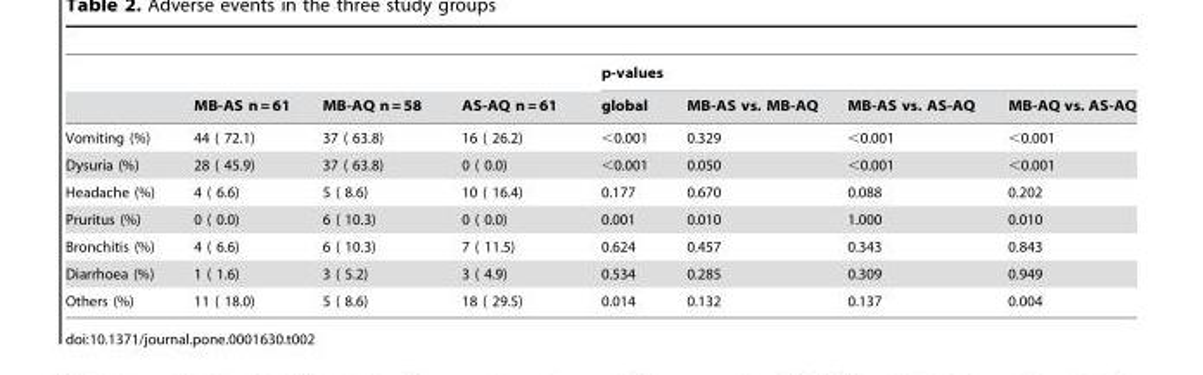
<table><thead><tr><td rowspan="2"></td><td rowspan="2">MB-AS n = 61</td><td rowspan="2">MB-AQ n = 58</td><td rowspan="2">AS-AQ n = 61</td><td colspan="4">p-values</td></tr><tr><td>global</td><td>MB-AS vs. MB-AQ</td><td>MB-AS vs. AS-AQ</td><td>MB-AQ vs. AS-AQ</td></tr></thead><tbody><tr><td>Vomiting (%)</td><td>44 ( 72.1)</td><td>37 ( 63.8)</td><td>16 ( 26.2)</td><td>&lt;0.001</td><td>0.329</td><td>&lt;0.001</td><td>&lt;0.001</td></tr><tr><td>Dysuria (%)</td><td>28 ( 45.9)</td><td>37 ( 63.8)</td><td>0 ( 0.0)</td><td>&lt;0.001</td><td>0.050</td><td>&lt;0.001</td><td>&lt;0.001</td></tr><tr><td>Headache (%)</td><td>4 ( 6.6)</td><td>5 ( 8.6)</td><td>10 ( 16.4)</td><td>0.177</td><td>0.670</td><td>0.088</td><td>0.202</td></tr><tr><td>Pruritus (%)</td><td>0 ( 0.0)</td><td>6 ( 10.3)</td><td>0 ( 0.0)</td><td>0.001</td><td>0.010</td><td>1.000</td><td>0.010</td></tr><tr><td>Bronchitis (%)</td><td>4 ( 6.6)</td><td>6 ( 10.3)</td><td>7 ( 11.5)</td><td>0.624</td><td>0.457</td><td>0.343</td><td>0.843</td></tr><tr><td>Diarrhoea (%)</td><td>1 ( 1.6)</td><td>3 ( 5.2)</td><td>3 ( 4.9)</td><td>0.534</td><td>0.285</td><td>0.309</td><td>0.949</td></tr><tr><td>Others (%)</td><td>11 ( 18.0)</td><td>5 ( 8.6)</td><td>18 ( 29.5)</td><td>0.014</td><td>0.132</td><td>0.137</td><td>0.004</td></tr></tbody></table>